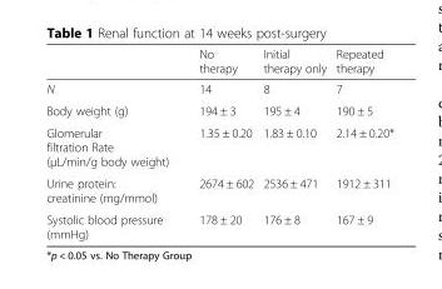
<table><thead><tr><td></td><td>No therapy</td><td>Initial therapy only</td><td>Repeated therapy</td></tr></thead><tbody><tr><td>N</td><td>14</td><td>8</td><td>7</td></tr><tr><td>Body weight (g)</td><td>194 ± 3</td><td>195 ± 4</td><td>190 ± 5</td></tr><tr><td>Glomerular filtration Rate (μL/min/g body weight)</td><td>1.35 ± 0.20</td><td>1.83 ± 0.10</td><td>2.14 ± 0.20*</td></tr><tr><td>Urine protein: creatinine (mg/mmol)</td><td>2674 ± 602</td><td>2536 ± 471</td><td>1912 ± 311</td></tr><tr><td>Systolic blood pressure (mmHg)</td><td>178 ± 20</td><td>176 ± 8</td><td>167 ± 9</td></tr></tbody></table>